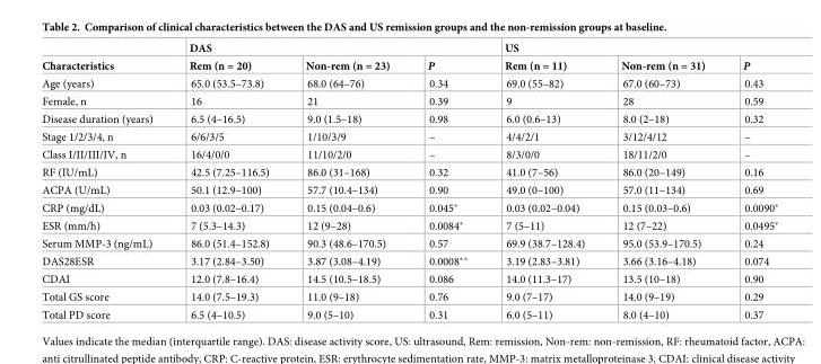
<table><thead><tr><td rowspan="2">Characteristics</td><td colspan="3">DAS</td><td colspan="3">US</td></tr><tr><td>Rem (n = 20)</td><td>Non-rem (n = 23)</td><td>P</td><td>Rem (n = 11)</td><td>Non-rem (n = 31)</td><td>P</td></tr></thead><tbody><tr><td>Age (years)</td><td>65.0 (53.5–73.8)</td><td>68.0 (64–76)</td><td>0.34</td><td>69.0 (55–82)</td><td>67.0 (60–73)</td><td>0.43</td></tr><tr><td>Female, n</td><td>16</td><td>21</td><td>0.39</td><td>9</td><td>28</td><td>0.59</td></tr><tr><td>Disease duration (years)</td><td>6.5 (4–16.5)</td><td>9.0 (1.5–18)</td><td>0.98</td><td>6.0 (0.6–13)</td><td>8.0 (2–18)</td><td>0.32</td></tr><tr><td>Stage 1/2/3/4, n</td><td>6/6/3/5</td><td>1/10/3/9</td><td>–</td><td>4/4/2/1</td><td>3/12/4/12</td><td>–</td></tr><tr><td>Class I/II/III/IV, n</td><td>16/4/0/0</td><td>11/10/2/0</td><td>–</td><td>8/3/0/0</td><td>18/11/2/0</td><td>–</td></tr><tr><td>RF (IU/mL)</td><td>42.5 (7.25–116.5)</td><td>86.0 (31–168)</td><td>0.32</td><td>41.0 (7–56)</td><td>86.0 (20–149)</td><td>0.16</td></tr><tr><td>ACPA (U/mL)</td><td>50.1 (12.9–100)</td><td>57.7 (10.4–134)</td><td>0.90</td><td>49.0 (0–100)</td><td>57.0 (11–134)</td><td>0.69</td></tr><tr><td>CRP (mg/dL)</td><td>0.03 (0.02–0.17)</td><td>0.15 (0.04–0.6)</td><td>0.045*</td><td>0.03 (0.02–0.04)</td><td>0.15 (0.03–0.6)</td><td>0.0090*</td></tr><tr><td>ESR (mm/h)</td><td>7 (5.3–14.3)</td><td>12 (9–28)</td><td>0.0084*</td><td>7 (5–11)</td><td>12 (7–22)</td><td>0.0495*</td></tr><tr><td>Serum MMP-3 (ng/mL)</td><td>86.0 (51.4–152.8)</td><td>90.3 (48.6–170.5)</td><td>0.57</td><td>69.9 (38.7–128.4)</td><td>95.0 (53.9–170.5)</td><td>0.24</td></tr><tr><td>DAS28ESR</td><td>3.17 (2.84–3.50)</td><td>3.87 (3.08–4.19)</td><td>0.0008**</td><td>3.19 (2.83–3.81)</td><td>3.66 (3.16–4.18)</td><td>0.074</td></tr><tr><td>CDAI</td><td>12.0 (7.8–16.4)</td><td>14.5 (10.5–18.5)</td><td>0.086</td><td>14.0 (11.3–17)</td><td>13.5 (10–18)</td><td>0.90</td></tr><tr><td>Total GS score</td><td>14.0 (7.5–19.3)</td><td>11.0 (9–18)</td><td>0.76</td><td>9.0 (7–17)</td><td>14.0 (9–19)</td><td>0.29</td></tr><tr><td>Total PD score</td><td>6.5 (4–10.5)</td><td>9.0 (5–10)</td><td>0.31</td><td>6.0 (5–11)</td><td>8.0 (4–10)</td><td>0.37</td></tr></tbody></table>